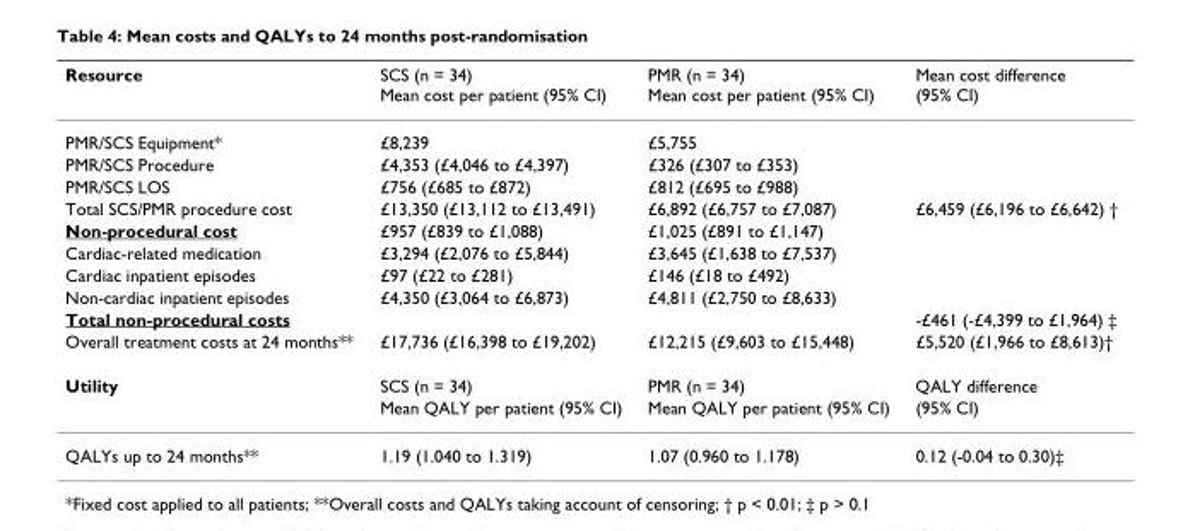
<table><thead><tr><td>Resource</td><td>SCS (n = 34) Mean cost per patient (95% CI)</td><td>PMR (n = 34) Mean cost per patient (95% CI)</td><td>Mean cost difference (95% CI)</td></tr></thead><tbody><tr><td>PMR/SCS Equipment*</td><td>£8,239</td><td>£5,755</td><td></td></tr><tr><td>PMR/SCS Procedure</td><td>£4,353 (£4,046 to £4,397)</td><td>£326 (£307 to £353)</td><td></td></tr><tr><td>PMR/SCS LOS</td><td>£756 (£685 to £872)</td><td>£812 (£695 to £988)</td><td></td></tr><tr><td>Total SCS/PMR procedure cost</td><td>£13,350 (£13,112 to £13,491)</td><td>£6,892 (£6,757 to £7,087)</td><td>£6,459 (£6,196 to £6,642) †</td></tr><tr><td>Non-procedural cost</td><td>£957 (£839 to £1,088)</td><td>£1,025 (£891 to £1,147)</td><td></td></tr><tr><td>Cardiac-related medication</td><td>£3,294 (£2,076 to £5,844)</td><td>£3,645 (£1,638 to £7,537)</td><td></td></tr><tr><td>Cardiac inpatient episodes</td><td>£97 (£22 to £281)</td><td>£146 (£18 to £492)</td><td></td></tr><tr><td>Non-cardiac inpatient episodes</td><td>£4,350 (£3,064 to £6,873)</td><td>£4,811 (£2,750 to £8,633)</td><td></td></tr><tr><td>Total non-procedural costs</td><td></td><td></td><td>-£461 (-£4,399 to £1,964) ‡</td></tr><tr><td>Overall treatment costs at 24 months**</td><td>£17,736 (£16,398 to £19,202)</td><td>£12,215 (£9,603 to £15,448)</td><td>£5,520 (£1,966 to £8,613)†</td></tr><tr><td rowspan="2">Utility</td><td>SCS (n = 34)</td><td>PMR (n = 34)</td><td>QALY difference</td></tr><tr><td>Mean QALY per patient (95% CI)</td><td>Mean QALY per patient (95% CI)</td><td>(95% CI)</td></tr><tr><td>QALYs up to 24 months**</td><td>1.19 (1.040 to 1.319)</td><td>1.07 (0.960 to 1.178)</td><td>0.12 (-0.04 to 0.30)‡</td></tr></tbody></table>